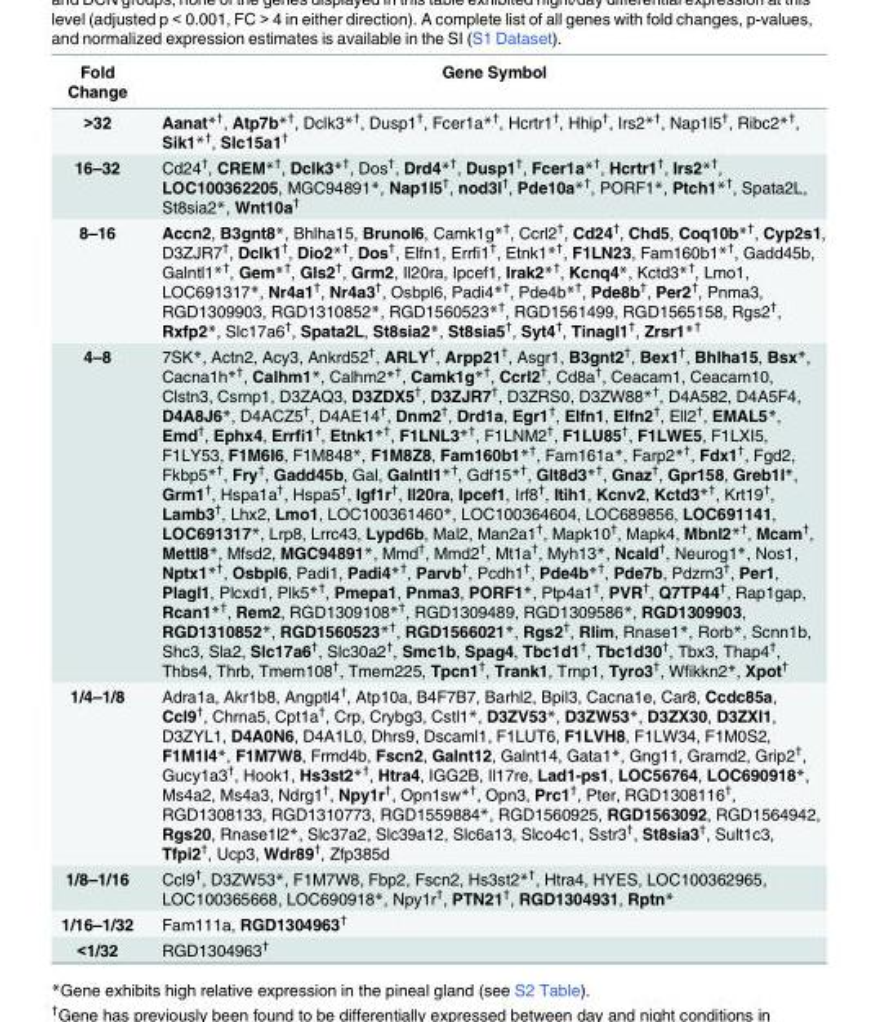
<table><thead><tr><td>Fold Change</td><td>Gene Symbol</td></tr></thead><tbody><tr><td>&gt;32</td><td>Aanat*<sup>†</sup>, Atp7b*<sup>†</sup>, Dclk3*<sup>†</sup>, Dusp1<sup>†</sup>, Fcer1a*<sup>†</sup>, Hcrtr1<sup>†</sup>, Hhip<sup>†</sup>, Irs2*<sup>†</sup>, Nap1l5<sup>†</sup>, Ribc2*<sup>†</sup>, Sik1*<sup>†</sup>, Slc15a1<sup>†</sup></td></tr><tr><td>16–32</td><td>Cd24†, CREM*†, Dclk3*†, Dos†, Drd4*†, Dusp1†, Fcer1a*†, Hcrtr1†, Irs2*†, LOC100362205, MGC94891*, Nap1l5†, nod3l†, Pde10a*†, PORF1*, Ptch1*†, Spata2L, St8sia2*, Wnt10a†</td></tr><tr><td>8–16</td><td>Accn2, B3gnt8*, Bhlha15, Brunol6, Camk1g*†, Ccrl2†, Cd24†, Chd5, Coq10b*†, Cyp2s1, D3ZJR7†, Dclk1†, Dio2*†, Dos†, Elfn1, Errfi1†, Etnk1*†, F1LN23, Fam160b1*†, Gadd45b, Galntl1*†, Gem*†, Gls2†, Grm2, Il20ra, Ipcef1, Irak2*†, Kcnq4*, Kctd3*†, Lmo1, LOC691317*, Nr4a1†, Nr4a3†, Osbpl6, Padi4*†, Pde4b*†, Pde8b†, Per2†, Pnma3, RGD1309903, RGD1310852*, RGD1560523*†, RGD1561499, RGD1565158, Rgs2†, Rxfp2*, Slc17a6†, Spata2L, St8sia2*, St8sia5†, Syt4†, Tinagl1†, Zrsr1*†</td></tr><tr><td>4–8</td><td>7SK*, Actn2, Acy3, Ankrd52†, ARLY†, Arpp21†, Asgr1, B3gnt2†, Bex1†, Bhlha15, Bsx*, Cacna1h*†, Calhm1*, Calhm2*†, Camk1g*†, Ccrl2†, Cd8a†, Ceacam1, Ceacam10, Clstn3, Csrnp1, D3ZAQ3, D3ZDX5†, D3ZJR7†, D3ZRS0, D3ZW88*†, D4A582, D4A5F4, D4A8J6*, D4ACZ5†, D4AE14†, Dnm2†, Drd1a, Egr1†, Elfn1, Elfn2†, Ell2†, EMAL5*, Emd†, Ephx4, Errfi1†, Etnk1*†, F1LNL3*†, F1LNM2†, F1LU85†, F1LWE5, F1LXI5, F1LY53, F1M6I6, F1M848*, F1M8Z8, Fam160b1*†, Fam161a*, Farp2*†, Fdx1†, Fgd2, Fkbp5*†, Fry†, Gadd45b, Gal, Galntl1*†, Gdf15*†, Glt8d3*†, Gnaz†, Gpr158, Greb1l*, Grm1†, Hspa1a†, Hspa5†, Igf1r†, Il20ra, Ipcef1, Irf8†, Itih1, Kcnv2, Kctd3*†, Krt19†, Lamb3†, Lhx2, Lmo1, LOC100361460*, LOC100364604, LOC689856, LOC691141, LOC691317*, Lrp8, Lrrc43, Lypd6b, Mal2, Man2a1†, Mapk10†, Mapk4, Mbnl2*†, Mcam†, Mettl8*, Mfsd2, MGC94891*, Mmd†, Mmd2†, Mt1a†, Myh13*, Ncald†, Neurog1*, Nos1, Nptx1*†, Osbpl6, Padi1, Padi4*†, Parvb†, Pcdh1†, Pde4b*†, Pde7b, Pdzrn3†, Per1, Plagl1, Plcxd1, Plk5*†, Pmepa1, Pnma3, PORF1*, Ptp4a1†, PVR†, Q7TP44†, Rap1gap, Rcan1*†, Rem2, RGD1309108*†, RGD1309489, RGD1309586*, RGD1309903, RGD1310852*, RGD1560523*†, RGD1566021*, Rgs2†, Rlim, Rnase1*, Rorb*, Scnn1b, Shc3, Sla2, Slc17a6†, Slc30a2†, Smc1b, Spag4, Tbc1d1†, Tbc1d30†, Tbx3, Thap4†, Thbs4, Thrb, Tmem108†, Tmem225, Tpcn1†, Trank1, Trnp1, Tyro3†, Wfikkn2*, Xpot†</td></tr><tr><td>1/4–1/8</td><td>Adra1a, Akr1b8, Angptl4†, Atp10a, B4F7B7, Barhl2, Bpil3, Cacna1e, Car8, Ccdc85a, Ccl9†, Chrna5, Cpt1a†, Crp, Crybg3, Cstl1*, D3ZV53*, D3ZW53*, D3ZX30, D3ZXI1, D3ZYL1, D4A0N6, D4A1L0, Dhrs9, Dscaml1, F1LUT6, F1LVH8, F1LW34, F1M0S2, F1M1I4*, F1M7W8, Frmd4b, Fscn2, Galnt12, Galnt14, Gata1*, Gng11, Gramd2, Grip2†, Gucy1a3†, Hook1, Hs3st2*†, Htra4, IGG2B, Il17re, Lad1-ps1, LOC56764, LOC690918*, Ms4a2, Ms4a3, Ndrg1†, Npy1r†, Opn1sw*†, Opn3, Prc1†, Pter, RGD1308116†, RGD1308133, RGD1310773, RGD1559884*, RGD1560925, RGD1563092, RGD1564942, Rgs20, Rnase1l2*, Slc37a2, Slc39a12, Slc6a13, Slco4c1, Sstr3†, St8sia3†, Sult1c3, Tfpi2†, Ucp3, Wdr89†, Zfp385d</td></tr><tr><td>1/8–1/16</td><td>Ccl9<sup>†</sup>, D3ZW53*, F1M7W8, Fbp2, Fscn2, Hs3st2*<sup>†</sup>, Htra4, HYES, LOC100362965, LOC100365668, LOC690918*, Npy1r<sup>†</sup>, PTN21<sup>†</sup>, RGD1304931, Rptn*</td></tr><tr><td>1/16–1/32</td><td>Fam111a, RGD1304963<sup>†</sup></td></tr><tr><td>&lt;1/32</td><td>RGD1304963<sup>†</sup></td></tr></tbody></table>